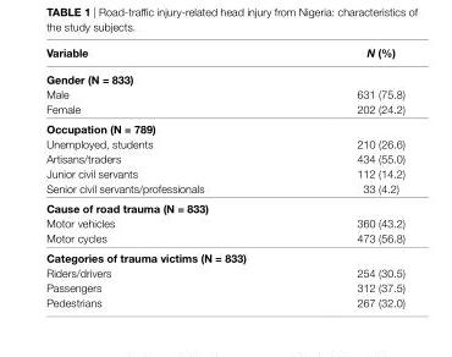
<table><thead><tr><td>Variable</td><td>N (%)</td></tr></thead><tbody><tr><td colspan="2">gender (n = 833)</td></tr><tr><td>Male</td><td>631 (75.8)</td></tr><tr><td>Female</td><td>202 (24.2)</td></tr><tr><td colspan="2">Occupation (n = 789)</td></tr><tr><td>Unemployed, students</td><td>210 (26.6)</td></tr><tr><td>Artisans/traders</td><td>434 (55.0)</td></tr><tr><td>Junior civil servants</td><td>112 (14.2)</td></tr><tr><td>Senior civil servants/professionals</td><td>33 (4.2)</td></tr><tr><td colspan="2">cause of road trauma (n = 833)</td></tr><tr><td>Motor vehicles</td><td>360 (43.2)</td></tr><tr><td>Motor cycles</td><td>473 (56.8)</td></tr><tr><td colspan="2">categories of trauma victims (n = 833)</td></tr><tr><td>Riders/drivers</td><td>254 (30.5)</td></tr><tr><td>Passengers</td><td>312 (37.5)</td></tr><tr><td>Pedestrians</td><td>267 (32.0)</td></tr></tbody></table>